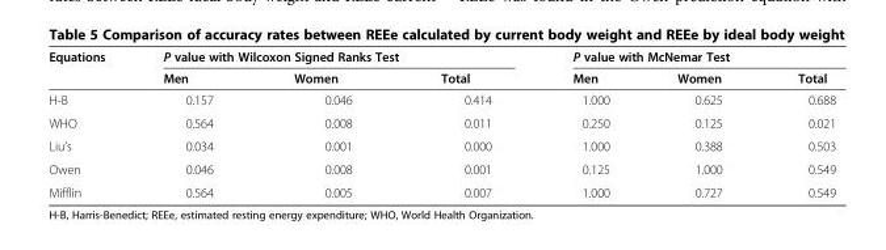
<table><thead><tr><td rowspan="2">Equations</td><td colspan="3">P value with Wilcoxon Signed Ranks Test</td><td colspan="3">P value with McNemar Test</td></tr><tr><td>Men</td><td>Women</td><td>Total</td><td>Men</td><td>Women</td><td>Total</td></tr></thead><tbody><tr><td>H-B</td><td>0.157</td><td>0.046</td><td>0.414</td><td>1.000</td><td>0.625</td><td>0.688</td></tr><tr><td>WHO</td><td>0.564</td><td>0.008</td><td>0.011</td><td>0.250</td><td>0.125</td><td>0.021</td></tr><tr><td>Liu’s</td><td>0.034</td><td>0.001</td><td>0.000</td><td>1.000</td><td>0.388</td><td>0.503</td></tr><tr><td>Owen</td><td>0.046</td><td>0.008</td><td>0.001</td><td>0.125</td><td>1.000</td><td>0.549</td></tr><tr><td>Mifflin</td><td>0.564</td><td>0.005</td><td>0.007</td><td>1.000</td><td>0.727</td><td>0.549</td></tr></tbody></table>